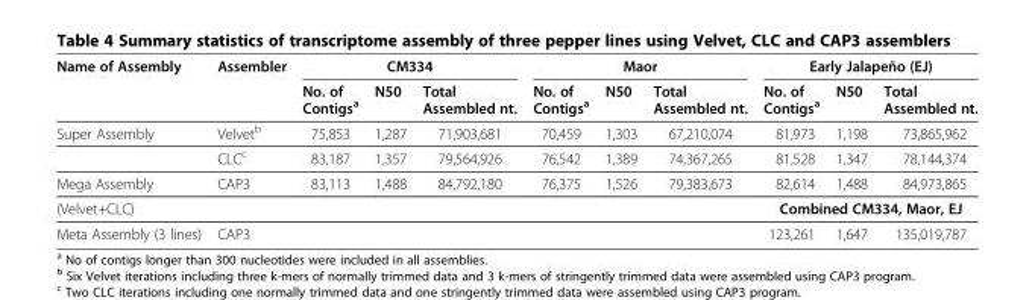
<table><thead><tr><td rowspan="2">Name of Assembly</td><td rowspan="2">Assembler</td><td colspan="3">CM334</td><td colspan="3">Maor</td><td colspan="3">Early Jalapeño (EJ)</td></tr><tr><td>No. of Contigs<sup>a</sup></td><td>N50</td><td>Total Assembled nt.</td><td>No. of Contigs<sup>a</sup></td><td>N50</td><td>Total Assembled nt.</td><td>No. of Contigs<sup>a</sup></td><td>N50</td><td>Total Assembled nt.</td></tr></thead><tbody><tr><td rowspan="2">Super Assembly</td><td>Velvet<sup>b</sup></td><td>75,853</td><td>1,287</td><td>71,903,681</td><td>70,459</td><td>1,303</td><td>67,210,074</td><td>81,973</td><td>1,198</td><td>73,865,962</td></tr><tr><td>CLC<sup>c</sup></td><td>83,187</td><td>1,357</td><td>79,564,926</td><td>76,542</td><td>1,389</td><td>74,367,265</td><td>81,528</td><td>1,347</td><td>78,144,374</td></tr><tr><td>Mega Assembly</td><td>CAP3</td><td>83,113</td><td>1,488</td><td>84,792,180</td><td>76,375</td><td>1,526</td><td>79,383,673</td><td>82,614</td><td>1,488</td><td>84,973,865</td></tr><tr><td colspan="8">(Velvet+CLC)</td><td colspan="3">Combined CM334, Maor, EJ</td></tr><tr><td>Meta Assembly (3 lines)</td><td>CAP3</td><td></td><td></td><td></td><td></td><td></td><td></td><td>123,261</td><td>1,647</td><td>135,019,787</td></tr></tbody></table>